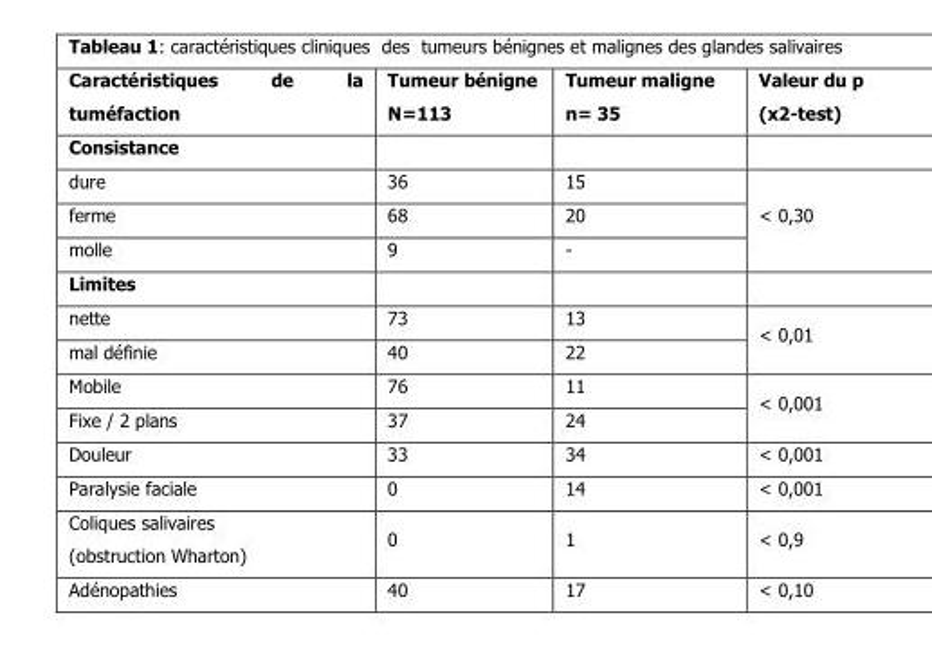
<table><thead><tr><td>Caractéristiques de la tuméfaction</td><td>Tumeur bénigne N=113</td><td>Tumeur maligne n= 35</td><td>Valeur du p (x2-test)</td></tr></thead><tbody><tr><td colspan="4">Consistance</td></tr><tr><td>dure</td><td>36</td><td>15</td><td rowspan="3">&lt; 0,30</td></tr><tr><td>ferme</td><td>68</td><td>20</td></tr><tr><td>molle</td><td>9</td><td>-</td></tr><tr><td colspan="4">Limites</td></tr><tr><td>nette</td><td>73</td><td>13</td><td rowspan="2">&lt; 0,01</td></tr><tr><td>mal définie</td><td>40</td><td>22</td></tr><tr><td>Mobile</td><td>76</td><td>11</td><td rowspan="2">&lt; 0,001</td></tr><tr><td>Fixe / 2 plans</td><td>37</td><td>24</td></tr><tr><td>Douleur</td><td>33</td><td>34</td><td>&lt; 0,001</td></tr><tr><td>Paralysie faciale</td><td>0</td><td>14</td><td>&lt; 0,001</td></tr><tr><td>Coliques salivaires (obstruction Wharton)</td><td>0</td><td>1</td><td>&lt; 0,9</td></tr><tr><td>Adénopathies</td><td>40</td><td>17</td><td>&lt; 0,10</td></tr></tbody></table>